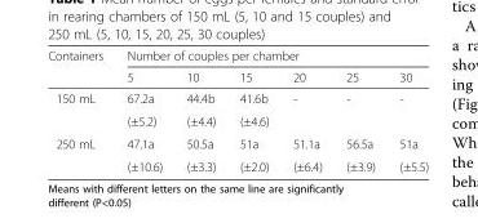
<table><thead><tr><td rowspan="2">Containers</td><td colspan="6">Number of couples per chamber</td></tr><tr><td>5</td><td>10</td><td>15</td><td>20</td><td>25</td><td>30</td></tr></thead><tbody><tr><td rowspan="2">150 mL</td><td>67.2a</td><td>44.4b</td><td>41.6b</td><td>-</td><td>-</td><td>-</td></tr><tr><td>(±5.2)</td><td>(±4.4)</td><td>(±4.6)</td><td></td><td></td><td></td></tr><tr><td rowspan="2">250 mL</td><td>47.1a</td><td>50.5a</td><td>51a</td><td>51.1a</td><td>56.5a</td><td>51a</td></tr><tr><td>(±10.6)</td><td>(±3.3)</td><td>(±2.0)</td><td>(±6.4)</td><td>(±3.9)</td><td>(±5.5)</td></tr></tbody></table>